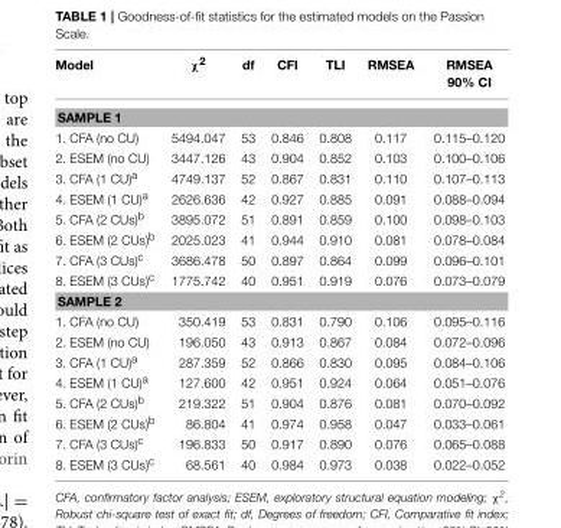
<table><thead><tr><td>Model</td><td>χ<sup>2</sup></td><td>df</td><td>CFI</td><td>TLI</td><td>RMSEA</td><td>RMSEA 90% CI</td></tr></thead><tbody><tr><td colspan="7">SAMPLE 1</td></tr><tr><td>1. CFA (no CU)</td><td>5494.047</td><td>53</td><td>0.846</td><td>0.808</td><td>0.117</td><td>0.115–0.120</td></tr><tr><td>2. ESEM (no CU)</td><td>3447.126</td><td>43</td><td>0.904</td><td>0.852</td><td>0.103</td><td>0.100–0.106</td></tr><tr><td>3. CFA (1 CU)<sup>a</sup></td><td>4749.137</td><td>52</td><td>0.867</td><td>0.831</td><td>0.110</td><td>0.107–0.113</td></tr><tr><td>4. ESEM (1 CU)<sup>a</sup></td><td>2626.636</td><td>42</td><td>0.927</td><td>0.885</td><td>0.091</td><td>0.088–0.094</td></tr><tr><td>5. CFA (2 CUs)<sup>b</sup></td><td>3895.072</td><td>51</td><td>0.891</td><td>0.859</td><td>0.100</td><td>0.098–0.103</td></tr><tr><td>6. ESEM (2 CUs)<sup>b</sup></td><td>2025.023</td><td>41</td><td>0.944</td><td>0.910</td><td>0.081</td><td>0.078–0.084</td></tr><tr><td>7. CFA (3 CUs)<sup>c</sup></td><td>3686.478</td><td>50</td><td>0.897</td><td>0.864</td><td>0.099</td><td>0.096–0.101</td></tr><tr><td>8. ESEM (3 CUs)<sup>c</sup></td><td>1775.742</td><td>40</td><td>0.951</td><td>0.919</td><td>0.076</td><td>0.073–0.079</td></tr><tr><td colspan="7">SAMPLE 2</td></tr><tr><td>1. CFA (no CU)</td><td>350.419</td><td>53</td><td>0.831</td><td>0.790</td><td>0.106</td><td>0.095–0.116</td></tr><tr><td>2. ESEM (no CU)</td><td>196.050</td><td>43</td><td>0.913</td><td>0.867</td><td>0.084</td><td>0.072–0.096</td></tr><tr><td>3. CFA (1 CU)<sup>a</sup></td><td>287.359</td><td>52</td><td>0.866</td><td>0.830</td><td>0.095</td><td>0.084–0.106</td></tr><tr><td>4. ESEM (1 CU)<sup>a</sup></td><td>127.600</td><td>42</td><td>0.951</td><td>0.924</td><td>0.064</td><td>0.051–0.076</td></tr><tr><td>5. CFA (2 CUs)<sup>b</sup></td><td>219.322</td><td>51</td><td>0.904</td><td>0.876</td><td>0.081</td><td>0.070–0.092</td></tr><tr><td>6. ESEM (2 CUs)<sup>b</sup></td><td>86.804</td><td>41</td><td>0.974</td><td>0.958</td><td>0.047</td><td>0.033–0.061</td></tr><tr><td>7. CFA (3 CUs)<sup>c</sup></td><td>196.833</td><td>50</td><td>0.917</td><td>0.890</td><td>0.076</td><td>0.065–0.088</td></tr><tr><td>8. ESEM (3 CUs)<sup>c</sup></td><td>68.561</td><td>40</td><td>0.984</td><td>0.973</td><td>0.038</td><td>0.022–0.052</td></tr></tbody></table>